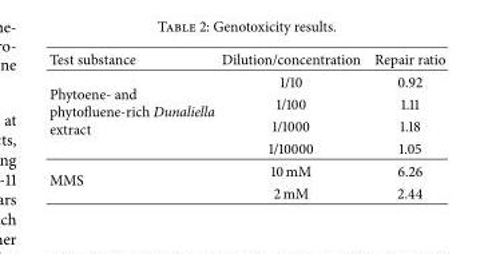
<table><thead><tr><td>Test substance</td><td>Dilution/concentration</td><td>Repair ratio</td></tr></thead><tbody><tr><td rowspan="4">Phytoene- and phytofluene-rich Dunaliella extract</td><td>1/10</td><td>0.92</td></tr><tr><td>1/100</td><td>1.11</td></tr><tr><td>1/1000</td><td>1.18</td></tr><tr><td>1/10000</td><td>1.05</td></tr><tr><td rowspan="2">MMS</td><td>10 mM</td><td>6.26</td></tr><tr><td>2 mM</td><td>2.44</td></tr></tbody></table>